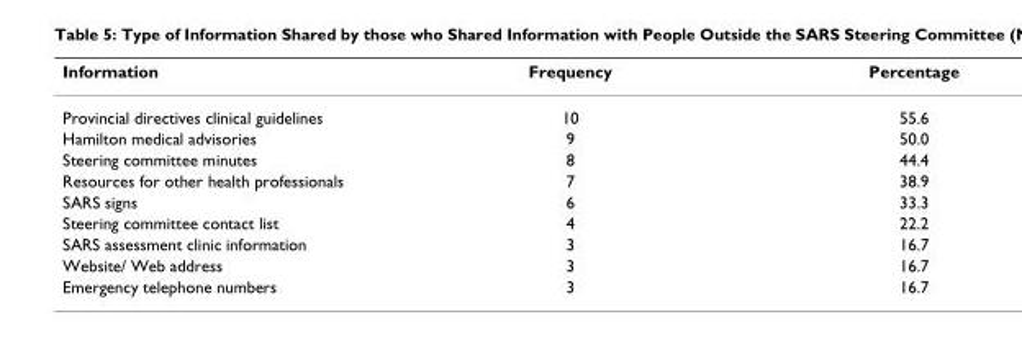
<table><thead><tr><td>Information</td><td>Frequency</td><td>Percentage</td></tr></thead><tbody><tr><td>Provincial directives clinical guidelines</td><td>10</td><td>55.6</td></tr><tr><td>Hamilton medical advisories</td><td>9</td><td>50.0</td></tr><tr><td>Steering committee minutes</td><td>8</td><td>44.4</td></tr><tr><td>Resources for other health professionals</td><td>7</td><td>38.9</td></tr><tr><td>SARS signs</td><td>6</td><td>33.3</td></tr><tr><td>Steering committee contact list</td><td>4</td><td>22.2</td></tr><tr><td>SARS assessment clinic information</td><td>3</td><td>16.7</td></tr><tr><td>Website/ Web address</td><td>3</td><td>16.7</td></tr><tr><td>Emergency telephone numbers</td><td>3</td><td>16.7</td></tr></tbody></table>